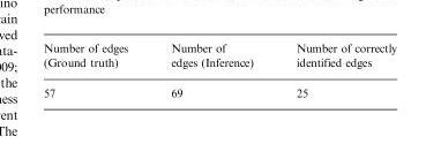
<table><thead><tr><td>Number of edges (Ground truth)</td><td>Number of edges (Inference)</td><td>Number of correctly identified edges</td></tr></thead><tbody><tr><td>57</td><td>69</td><td>25</td></tr></tbody></table>